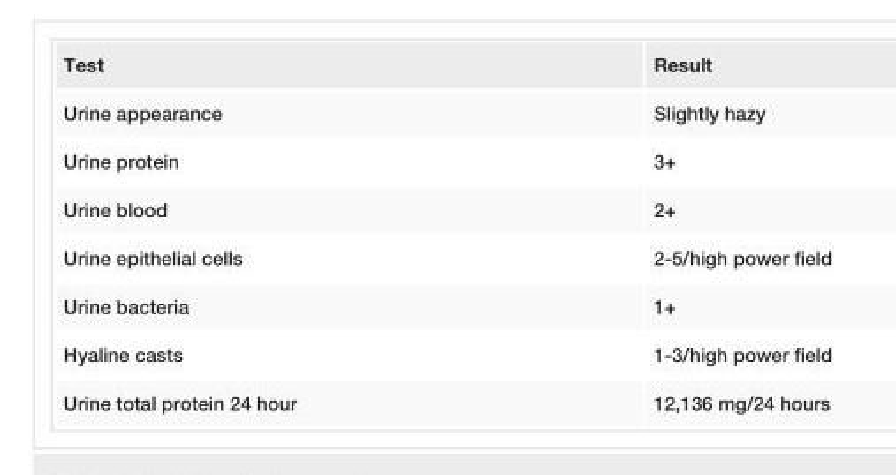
<table><tbody><tr><td>Test</td><td>Result</td></tr><tr><td>Urine appearance</td><td>Slightly hazy</td></tr><tr><td>Urine protein</td><td>3+</td></tr><tr><td>Urine blood</td><td>2+</td></tr><tr><td>Urine epithelial cells</td><td>2-5/high power field</td></tr><tr><td>Urine bacteria</td><td>1+</td></tr><tr><td>Hyaline casts</td><td>1-3/high power field</td></tr><tr><td>Urine total protein 24 hour</td><td>12,136 mg/24 hours</td></tr></tbody></table>